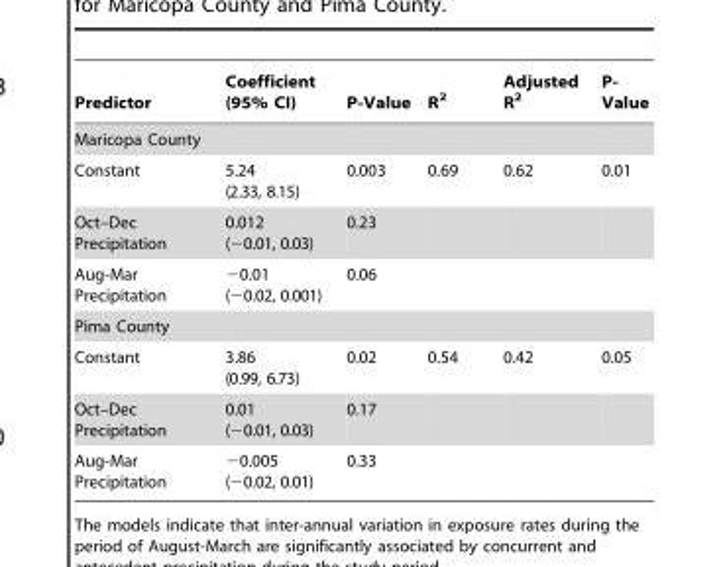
<table><thead><tr><td>Predictor</td><td>Coefficient (95% CI)</td><td>P-Value</td><td>R<sup>2</sup></td><td>Adjusted R<sup>2</sup></td><td>P- Value</td></tr></thead><tbody><tr><td colspan="6">Maricopa County</td></tr><tr><td>Constant</td><td>5.24 (2.33, 8.15)</td><td>0.003</td><td>0.69</td><td>0.62</td><td>0.01</td></tr><tr><td>Oct–Dec Precipitation</td><td>0.012 (−0.01, 0.03)</td><td>0.23</td><td></td><td></td><td></td></tr><tr><td>Aug-Mar Precipitation</td><td>−0.01 (−0.02, 0.001)</td><td>0.06</td><td></td><td></td><td></td></tr><tr><td colspan="6">Pima County</td></tr><tr><td>Constant</td><td>3.86 (0.99, 6.73)</td><td>0.02</td><td>0.54</td><td>0.42</td><td>0.05</td></tr><tr><td>Oct–Dec Precipitation</td><td>0.01 (−0.01, 0.03)</td><td>0.17</td><td></td><td></td><td></td></tr><tr><td>Aug-Mar Precipitation</td><td>−0.005 (−0.02, 0.01)</td><td>0.33</td><td></td><td></td><td></td></tr></tbody></table>